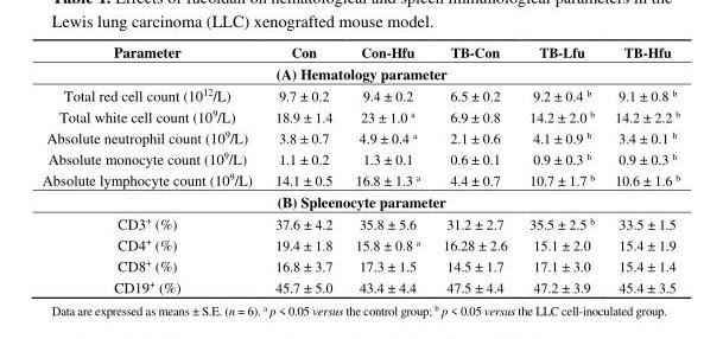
<table><thead><tr><td>Parameter</td><td>Con</td><td>Con-Hfu</td><td>TB-Con</td><td>TB-Lfu</td><td>TB-Hfu</td></tr></thead><tbody><tr><td colspan="6">(A) Hematology parameter</td></tr><tr><td>Total red cell count (10<sup>12</sup>/L)</td><td>9.7 ± 0.2</td><td>9.4 ± 0.2</td><td>6.5 ± 0.2</td><td>9.2 ± 0.4 <sup>b</sup></td><td>9.1 ± 0.8 <sup>b</sup></td></tr><tr><td>Total white cell count (10<sup>9</sup>/L)</td><td>18.9 ± 1.4</td><td>23 ± 1.0 <sup>a</sup></td><td>6.9 ± 0.8</td><td>14.2 ± 2.0 <sup>b</sup></td><td>14.2 ± 2.2 <sup>b</sup></td></tr><tr><td>Absolute neutrophil count (10<sup>9</sup>/L)</td><td>3.8 ± 0.7</td><td>4.9 ± 0.4 <sup>a</sup></td><td>2.1 ± 0.6</td><td>4.1 ± 0.9 <sup>b</sup></td><td>3.4 ± 0.1 <sup>b</sup></td></tr><tr><td>Absolute monocyte count (10<sup>9</sup>/L)</td><td>1.1 ± 0.2</td><td>1.3 ± 0.1</td><td>0.6 ± 0.1</td><td>0.9 ± 0.3 <sup>b</sup></td><td>0.9 ± 0.3 <sup>b</sup></td></tr><tr><td>Absolute lymphocyte count (10<sup>9</sup>/L)</td><td>14.1 ± 0.5</td><td>16.8 ± 1.3 <sup>a</sup></td><td>4.4 ± 0.7</td><td>10.7 ± 1.7 <sup>b</sup></td><td>10.6 ± 1.6 <sup>b</sup></td></tr><tr><td colspan="6">(B) Spleenocyte parameter</td></tr><tr><td>CD3<sup>+</sup> (%)</td><td>37.6 ± 4.2</td><td>35.8 ± 5.6</td><td>31.2 ± 2.7</td><td>35.5 ± 2.5 <sup>b</sup></td><td>33.5 ± 1.5</td></tr><tr><td>CD4<sup>+</sup> (%)</td><td>19.4 ± 1.8</td><td>15.8 ± 0.8 <sup>a</sup></td><td>16.28 ± 2.6</td><td>15.1 ± 2.0</td><td>15.4 ± 1.9</td></tr><tr><td>CD8<sup>+</sup> (%)</td><td>16.8 ± 3.7</td><td>17.3 ± 1.5</td><td>14.5 ± 1.7</td><td>17.1 ± 3.0</td><td>15.4 ± 1.4</td></tr><tr><td>CD19<sup>+</sup> (%)</td><td>45.7 ± 5.0</td><td>43.4 ± 4.4</td><td>47.5 ± 4.4</td><td>47.2 ± 3.9</td><td>45.4 ± 3.5</td></tr></tbody></table>